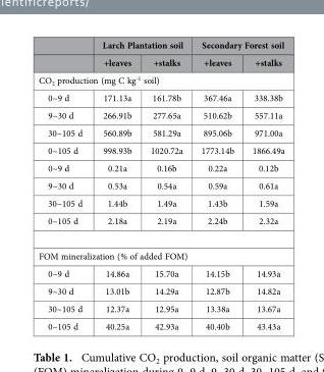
<table><thead><tr><td rowspan="2"></td><td colspan="2">Larch Plantation soil</td><td colspan="2">Secondary Forest soil</td></tr><tr><td>+leaves</td><td>+stalks</td><td>+leaves</td><td>+stalks</td></tr></thead><tbody><tr><td colspan="5">CO<sub>2</sub> production (mg C kg<sup>-1</sup> soil)</td></tr><tr><td>0~9 d</td><td>171.13a</td><td>161.78b</td><td>367.46a</td><td>338.38b</td></tr><tr><td>9~30 d</td><td>266.91b</td><td>277.65a</td><td>510.62b</td><td>557.11a</td></tr><tr><td>30~105 d</td><td>560.89b</td><td>581.29a</td><td>895.06b</td><td>971.00a</td></tr><tr><td>0~105 d</td><td>998.93b</td><td>1020.72a</td><td>1773.14b</td><td>1866.49a</td></tr><tr><td>0~9 d</td><td>0.21a</td><td>0.16b</td><td>0.22a</td><td>0.12b</td></tr><tr><td>9~30 d</td><td>0.53a</td><td>0.54a</td><td>0.59a</td><td>0.61a</td></tr><tr><td>30~105 d</td><td>1.44b</td><td>1.49a</td><td>1.43b</td><td>1.59a</td></tr><tr><td>0~105 d</td><td>2.18a</td><td>2.19a</td><td>2.24b</td><td>2.32a</td></tr><tr><td colspan="5">FOM mineralization (% of added FOM)</td></tr><tr><td>0~9 d</td><td>14.86a</td><td>15.70a</td><td>14.15b</td><td>14.93a</td></tr><tr><td>9~30 d</td><td>13.01b</td><td>14.29a</td><td>12.87b</td><td>14.82a</td></tr><tr><td>30~105 d</td><td>12.37a</td><td>12.95a</td><td>13.38a</td><td>13.67a</td></tr><tr><td>0~105 d</td><td>40.25a</td><td>42.93a</td><td>40.40b</td><td>43.43a</td></tr></tbody></table>